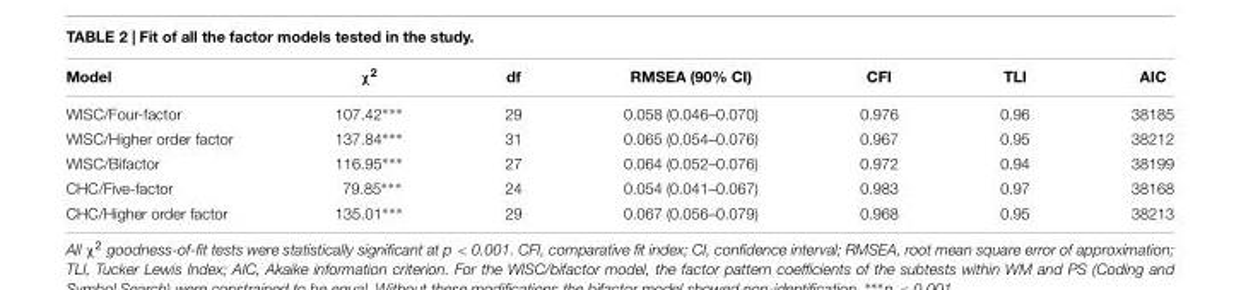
<table><thead><tr><td>Model</td><td>χ<sup>2</sup></td><td>df</td><td>RMSEA (90% CI)</td><td>CFI</td><td>TLI</td><td>AIC</td></tr></thead><tbody><tr><td>WISC/Four-factor</td><td>107.42∗∗∗</td><td>29</td><td>0.058 (0.046–0.070)</td><td>0.976</td><td>0.96</td><td>38185</td></tr><tr><td>WISC/Higher order factor</td><td>137.84∗∗∗</td><td>31</td><td>0.065 (0.054–0.076)</td><td>0.967</td><td>0.95</td><td>38212</td></tr><tr><td>WISC/Bifactor</td><td>116.95∗∗∗</td><td>27</td><td>0.064 (0.052–0.076)</td><td>0.972</td><td>0.94</td><td>38199</td></tr><tr><td>CHC/Five-factor</td><td>79.85∗∗∗</td><td>24</td><td>0.054 (0.041–0.067)</td><td>0.983</td><td>0.97</td><td>38168</td></tr><tr><td>CHC/Higher order factor</td><td>135.01∗∗∗</td><td>29</td><td>0.067 (0.056–0.079)</td><td>0.968</td><td>0.95</td><td>38213</td></tr></tbody></table>